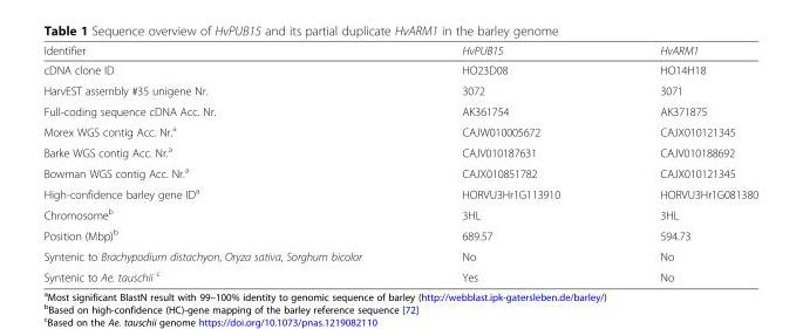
<table><thead><tr><td>Identifier</td><td>HvPUB15</td><td>HvARM1</td></tr></thead><tbody><tr><td>cDNA clone ID</td><td>HO23D08</td><td>HO14H18</td></tr><tr><td>HarvEST assembly #35 unigene Nr.</td><td>3072</td><td>3071</td></tr><tr><td>Full-coding sequence cDNA Acc. Nr.</td><td>AK361754</td><td>AK371875</td></tr><tr><td>Morex WGS contig Acc. Nr.<sup>a</sup></td><td>CAJW010005672</td><td>CAJX010121345</td></tr><tr><td>Barke WGS contig Acc. Nr.<sup>a</sup></td><td>CAJV010187631</td><td>CAJV010188692</td></tr><tr><td>Bowman WGS contig Acc. Nr.<sup>a</sup></td><td>CAJX010851782</td><td>CAJX010121345</td></tr><tr><td>High-confidence barley gene ID<sup>a</sup></td><td>HORVU3Hr1G113910</td><td>HORVU3Hr1G081380</td></tr><tr><td>Chromosome<sup>b</sup></td><td>3HL</td><td>3HL</td></tr><tr><td>Position (Mbp)<sup>b</sup></td><td>689.57</td><td>594.73</td></tr><tr><td>Syntenic to Brachypodium distachyon, Oryza sativa, Sorghum bicolor</td><td>No</td><td>No</td></tr><tr><td>Syntenic to Ae. tauschii <sup>c</sup></td><td>Yes</td><td>No</td></tr></tbody></table>